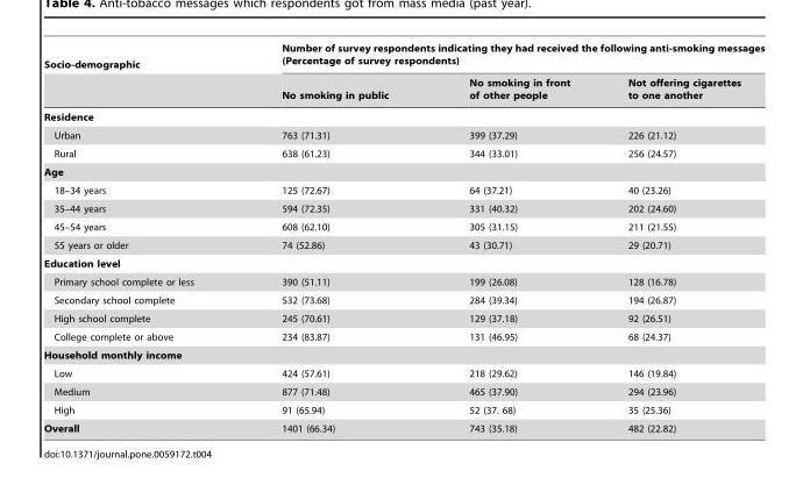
<table><thead><tr><td rowspan="2">Socio-demographic</td><td colspan="3">Number of survey respondents indicating they had received the following anti-smoking messages (Percentage of survey respondents)</td></tr><tr><td>No smoking in public</td><td>No smoking in front of other people</td><td>Not offering cigarettes to one another</td></tr></thead><tbody><tr><td colspan="4">Residence</td></tr><tr><td>Urban</td><td>763 (71.31)</td><td>399 (37.29)</td><td>226 (21.12)</td></tr><tr><td>Rural</td><td>638 (61.23)</td><td>344 (33.01)</td><td>256 (24.57)</td></tr><tr><td colspan="4">Age</td></tr><tr><td>18–34 years</td><td>125 (72.67)</td><td>64 (37.21)</td><td>40 (23.26)</td></tr><tr><td>35–44 years</td><td>594 (72.35)</td><td>331 (40.32)</td><td>202 (24.60)</td></tr><tr><td>45–54 years</td><td>608 (62.10)</td><td>305 (31.15)</td><td>211 (21.55)</td></tr><tr><td>55 years or older</td><td>74 (52.86)</td><td>43 (30.71)</td><td>29 (20.71)</td></tr><tr><td colspan="4">Education level</td></tr><tr><td>Primary school complete or less</td><td>390 (51.11)</td><td>199 (26.08)</td><td>128 (16.78)</td></tr><tr><td>Secondary school complete</td><td>532 (73.68)</td><td>284 (39.34)</td><td>194 (26.87)</td></tr><tr><td>High school complete</td><td>245 (70.61)</td><td>129 (37.18)</td><td>92 (26.51)</td></tr><tr><td>College complete or above</td><td>234 (83.87)</td><td>131 (46.95)</td><td>68 (24.37)</td></tr><tr><td colspan="4">Household monthly income</td></tr><tr><td>Low</td><td>424 (57.61)</td><td>218 (29.62)</td><td>146 (19.84)</td></tr><tr><td>Medium</td><td>877 (71.48)</td><td>465 (37.90)</td><td>294 (23.96)</td></tr><tr><td>High</td><td>91 (65.94)</td><td>52 (37. 68)</td><td>35 (25.36)</td></tr><tr><td>Overall</td><td>1401 (66.34)</td><td>743 (35.18)</td><td>482 (22.82)</td></tr></tbody></table>